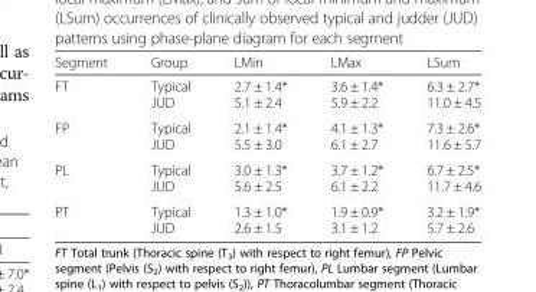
<table><thead><tr><td>Segment</td><td>Group</td><td>LMin</td><td>LMax</td><td>LSum</td></tr></thead><tbody><tr><td>FT</td><td>Typical JUD</td><td>2.7 ± 1.4* 5.1 ± 2.4</td><td>3.6 ± 1.4* 5.9 ± 2.2</td><td>6.3 ± 2.7* 11.0 ± 4.5</td></tr><tr><td>FP</td><td>Typical JUD</td><td>2.1 ± 1.4* 5.5 ± 3.0</td><td>4.1 ± 1.3* 6.1 ± 2.7</td><td>7.3 ± 2.6* 11.6 ± 5.7</td></tr><tr><td>PL</td><td>Typical JUD</td><td>3.0 ± 1.3* 5.6 ± 2.5</td><td>3.7 ± 1.2* 6.1 ± 2.2</td><td>6.7 ± 2.5* 11.7 ± 4.6</td></tr><tr><td>PT</td><td>Typical JUD</td><td>1.3 ± 1.0* 2.6 ± 1.5</td><td>1.9 ± 0.9* 3.1 ± 1.2</td><td>3.2 ± 1.9* 5.7 ± 2.6</td></tr></tbody></table>